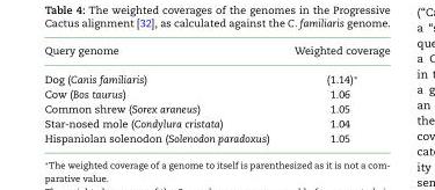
<table><thead><tr><td>Query genome</td><td>Weighted coverage</td></tr></thead><tbody><tr><td>Dog (Canis familiaris)</td><td>(1.14)∗</td></tr><tr><td>Cow (Bos taurus)</td><td>1.06</td></tr><tr><td>Common shrew (Sorex araneus)</td><td>1.05</td></tr><tr><td>Star-nosed mole (Condylura cristata)</td><td>1.04</td></tr><tr><td>Hispaniolan solenodon (Solenodon paradoxus)</td><td>1.05</td></tr></tbody></table>